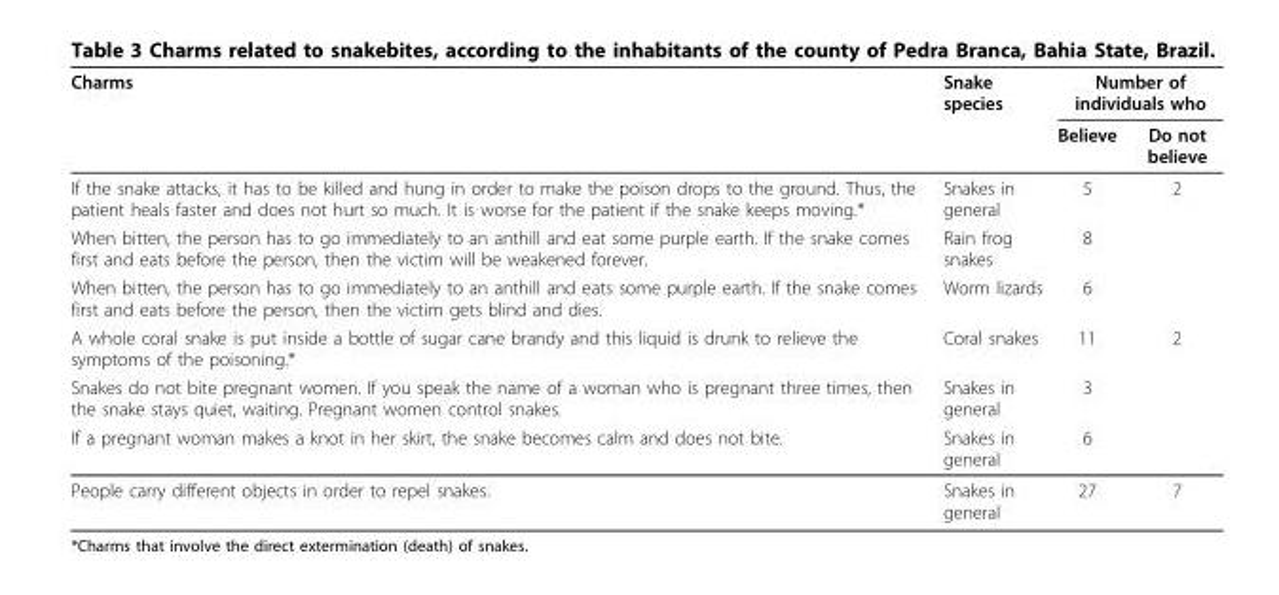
<table><thead><tr><td rowspan="2">Charms</td><td rowspan="2">Snake species</td><td colspan="2">Number of individuals who</td></tr><tr><td>Believe</td><td>Do not believe</td></tr></thead><tbody><tr><td>If the snake attacks, it has to be killed and hung in order to make the poison drops to the ground. Thus, the patient heals faster and does not hurt so much. It is worse for the patient if the snake keeps moving.*</td><td>Snakes in general</td><td>5</td><td>2</td></tr><tr><td>When bitten, the person has to go immediately to an anthill and eat some purple earth. If the snake comes first and eats before the person, then the victim will be weakened forever.</td><td>Rain frog snakes</td><td>8</td><td></td></tr><tr><td>When bitten, the person has to go immediately to an anthill and eats some purple earth. If the snake comes first and eats before the person, then the victim gets blind and dies.</td><td>Worm lizards</td><td>6</td><td></td></tr><tr><td>A whole coral snake is put inside a bottle of sugar cane brandy and this liquid is drunk to relieve the symptoms of the poisoning.*</td><td>Coral snakes</td><td>11</td><td>2</td></tr><tr><td>Snakes do not bite pregnant women. If you speak the name of a woman who is pregnant three times, then the snake stays quiet, waiting. Pregnant women control snakes.</td><td>Snakes in general</td><td>3</td><td></td></tr><tr><td>If a pregnant woman makes a knot in her skirt, the snake becomes calm and does not bite.</td><td>Snakes in general</td><td>6</td><td></td></tr><tr><td>People carry different objects in order to repel snakes.</td><td>Snakes in general</td><td>27</td><td>7</td></tr></tbody></table>